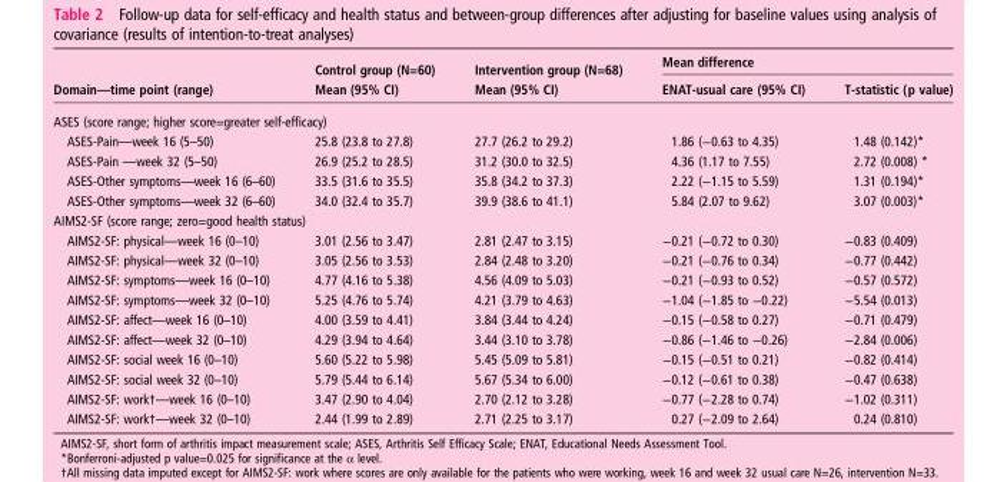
<table><thead><tr><td rowspan="2">Domain—time point (range)</td><td rowspan="2">Control group (N=60) Mean (95% CI)</td><td rowspan="2">Intervention group (N=68) Mean (95% CI)</td><td colspan="2">Mean difference</td></tr><tr><td>ENAT-usual care (95% CI)</td><td>T-statistic (p value)</td></tr></thead><tbody><tr><td colspan="5">ASES (score range; higher score=greater self-efficacy)</td></tr><tr><td>ASES-Pain—week 16 (5–50)</td><td>25.8 (23.8 to 27.8)</td><td>27.7 (26.2 to 29.2)</td><td>1.86 (−0.63 to 4.35)</td><td>1.48 (0.142)*</td></tr><tr><td>ASES-Pain —week 32 (5–50)</td><td>26.9 (25.2 to 28.5)</td><td>31.2 (30.0 to 32.5)</td><td>4.36 (1.17 to 7.55)</td><td>2.72 (0.008) *</td></tr><tr><td>ASES-Other symptoms—week 16 (6–60)</td><td>33.5 (31.6 to 35.5)</td><td>35.8 (34.2 to 37.3)</td><td>2.22 (−1.15 to 5.59)</td><td>1.31 (0.194)*</td></tr><tr><td>ASES-Other symptoms—week 32 (6–60)</td><td>34.0 (32.4 to 35.7)</td><td>39.9 (38.6 to 41.1)</td><td>5.84 (2.07 to 9.62)</td><td>3.07 (0.003)*</td></tr><tr><td colspan="5">AIMS2-SF (score range; zero=good health status)</td></tr><tr><td>AIMS2-SF: physical—week 16 (0–10)</td><td>3.01 (2.56 to 3.47)</td><td>2.81 (2.47 to 3.15)</td><td>−0.21 (−0.72 to 0.30)</td><td>−0.83 (0.409)</td></tr><tr><td>AIMS2-SF: physical—week 32 (0–10)</td><td>3.05 (2.56 to 3.53)</td><td>2.84 (2.48 to 3.20)</td><td>−0.21 (−0.76 to 0.34)</td><td>−0.77 (0.442)</td></tr><tr><td>AIMS2-SF: symptoms—week 16 (0–10)</td><td>4.77 (4.16 to 5.38)</td><td>4.56 (4.09 to 5.03)</td><td>−0.21 (−0.93 to 0.52)</td><td>−0.57 (0.572)</td></tr><tr><td>AIMS2-SF: symptoms—week 32 (0–10)</td><td>5.25 (4.76 to 5.74)</td><td>4.21 (3.79 to 4.63)</td><td>−1.04 (−1.85 to −0.22)</td><td>−5.54 (0.013)</td></tr><tr><td>AIMS2-SF: affect—week 16 (0–10)</td><td>4.00 (3.59 to 4.41)</td><td>3.84 (3.44 to 4.24)</td><td>−0.15 (−0.58 to 0.27)</td><td>−0.71 (0.479)</td></tr><tr><td>AIMS2-SF: affect—week 32 (0–10)</td><td>4.29 (3.94 to 4.64)</td><td>3.44 (3.10 to 3.78)</td><td>−0.86 (−1.46 to −0.26)</td><td>−2.84 (0.006)</td></tr><tr><td>AIMS2-SF: social week 16 (0–10)</td><td>5.60 (5.22 to 5.98)</td><td>5.45 (5.09 to 5.81)</td><td>−0.15 (−0.51 to 0.21)</td><td>−0.82 (0.414)</td></tr><tr><td>AIMS2-SF: social week 32 (0–10)</td><td>5.79 (5.44 to 6.14)</td><td>5.67 (5.34 to 6.00)</td><td>−0.12 (−0.61 to 0.38)</td><td>−0.47 (0.638)</td></tr><tr><td>AIMS2-SF: work†—week 16 (0–10)</td><td>3.47 (2.90 to 4.04)</td><td>2.70 (2.12 to 3.28)</td><td>−0.77 (−2.28 to 0.74)</td><td>−1.02 (0.311)</td></tr><tr><td>AIMS2-SF: work†—week 32 (0–10)</td><td>2.44 (1.99 to 2.89)</td><td>2.71 (2.25 to 3.17)</td><td>0.27 (−2.09 to 2.64)</td><td>0.24 (0.810)</td></tr></tbody></table>